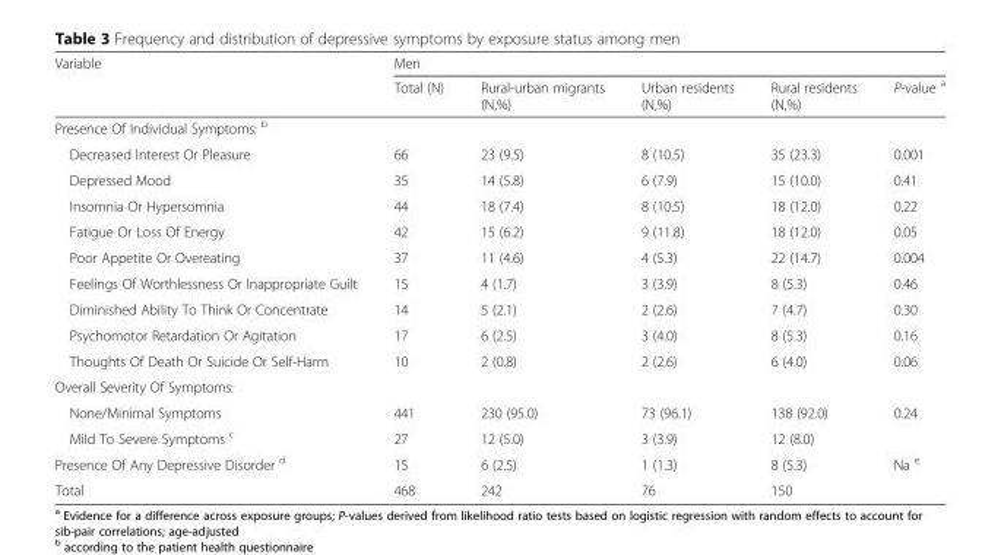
<table><thead><tr><td rowspan="2">Variable</td><td colspan="5">Men</td></tr><tr><td>Total (N)</td><td>Rural-urban migrants (N,%)</td><td>Urban residents (N,%)</td><td>Rural residents (N,%)</td><td>P-value <sup>a</sup></td></tr></thead><tbody><tr><td colspan="6">Presence Of Individual Symptoms: <sup>b</sup></td></tr><tr><td>Decreased Interest Or Pleasure</td><td>66</td><td>23 (9.5)</td><td>8 (10.5)</td><td>35 (23.3)</td><td>0.001</td></tr><tr><td>Depressed Mood</td><td>35</td><td>14 (5.8)</td><td>6 (7.9)</td><td>15 (10.0)</td><td>0.41</td></tr><tr><td>Insomnia Or Hypersomnia</td><td>44</td><td>18 (7.4)</td><td>8 (10.5)</td><td>18 (12.0)</td><td>0.22</td></tr><tr><td>Fatigue Or Loss Of Energy</td><td>42</td><td>15 (6.2)</td><td>9 (11.8)</td><td>18 (12.0)</td><td>0.05</td></tr><tr><td>Poor Appetite Or Overeating</td><td>37</td><td>11 (4.6)</td><td>4 (5.3)</td><td>22 (14.7)</td><td>0.004</td></tr><tr><td>Feelings Of Worthlessness Or Inappropriate Guilt</td><td>15</td><td>4 (1.7)</td><td>3 (3.9)</td><td>8 (5.3)</td><td>0.46</td></tr><tr><td>Diminished Ability To Think Or Concentrate</td><td>14</td><td>5 (2.1)</td><td>2 (2.6)</td><td>7 (4.7)</td><td>0.30</td></tr><tr><td>Psychomotor Retardation Or Agitation</td><td>17</td><td>6 (2.5)</td><td>3 (4.0)</td><td>8 (5.3)</td><td>0.16</td></tr><tr><td>Thoughts Of Death Or Suicide Or Self-Harm</td><td>10</td><td>2 (0.8)</td><td>2 (2.6)</td><td>6 (4.0)</td><td>0.06</td></tr><tr><td colspan="6">Overall Severity Of Symptoms:</td></tr><tr><td>None/Minimal Symptoms</td><td>441</td><td>230 (95.0)</td><td>73 (96.1)</td><td>138 (92.0)</td><td rowspan="2">0.24</td></tr><tr><td>Mild To Severe Symptoms <sup>c</sup></td><td>27</td><td>12 (5.0)</td><td>3 (3.9)</td><td>12 (8.0)</td></tr><tr><td>Presence Of Any Depressive Disorder <sup>d</sup></td><td>15</td><td>6 (2.5)</td><td>1 (1.3)</td><td>8 (5.3)</td><td>Na <sup>e</sup></td></tr><tr><td>Total</td><td>468</td><td>242</td><td>76</td><td>150</td><td></td></tr></tbody></table>